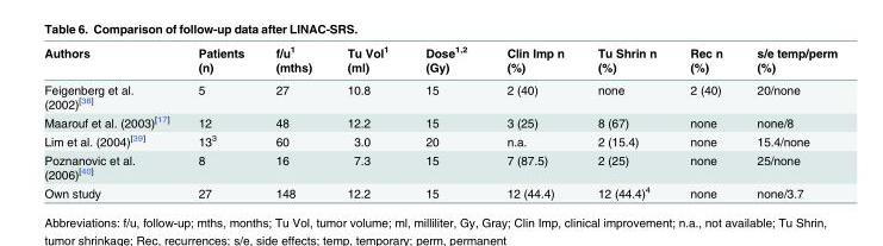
<table><thead><tr><td>Authors</td><td>Patients (n)</td><td>f/u<sup>1</sup> (mths)</td><td>Tu Vol<sup>1</sup> (ml)</td><td>Dose<sup>1,2</sup> (Gy)</td><td>Clin Imp n (%)</td><td>Tu Shrin n (%)</td><td>Rec n (%)</td><td>s/e temp/perm (%)</td></tr></thead><tbody><tr><td>Feigenberg et al. (2002)<sup>[38]</sup></td><td>5</td><td>27</td><td>10.8</td><td>15</td><td>2 (40)</td><td>none</td><td>2 (40)</td><td>20/none</td></tr><tr><td>Maarouf et al. (2003)<sup>[17]</sup></td><td>12</td><td>48</td><td>12.2</td><td>15</td><td>3 (25)</td><td>8 (67)</td><td>none</td><td>none/8</td></tr><tr><td>Lim et al. (2004)<sup>[39]</sup></td><td>13<sup>3</sup></td><td>60</td><td>3.0</td><td>20</td><td>n.a.</td><td>2 (15.4)</td><td>none</td><td>15.4/none</td></tr><tr><td>Poznanovic et al. (2006)<sup>[40]</sup></td><td>8</td><td>16</td><td>7.3</td><td>15</td><td>7 (87.5)</td><td>2 (25)</td><td>none</td><td>25/none</td></tr><tr><td>Own study</td><td>27</td><td>148</td><td>12.2</td><td>15</td><td>12 (44.4)</td><td>12 (44.4)<sup>4</sup></td><td>none</td><td>none/3.7</td></tr></tbody></table>